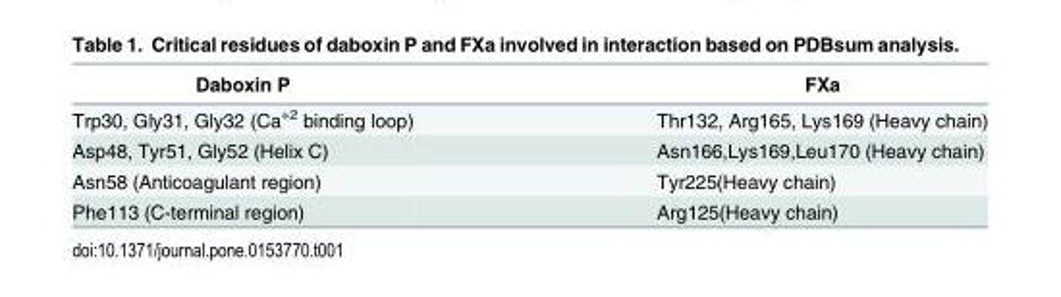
<table><thead><tr><td>Daboxin P</td><td>FXa</td></tr></thead><tbody><tr><td>Trp30, Gly31, Gly32 (Ca<sup>+2</sup> binding loop)</td><td>Thr132, Arg165, Lys169 (Heavy chain)</td></tr><tr><td>Asp48, Tyr51, Gly52 (Helix C)</td><td>Asn166,Lys169,Leu170 (Heavy chain)</td></tr><tr><td>Asn58 (Anticoagulant region)</td><td>Tyr225(Heavy chain)</td></tr><tr><td>Phe113 (C-terminal region)</td><td>Arg125(Heavy chain)</td></tr></tbody></table>